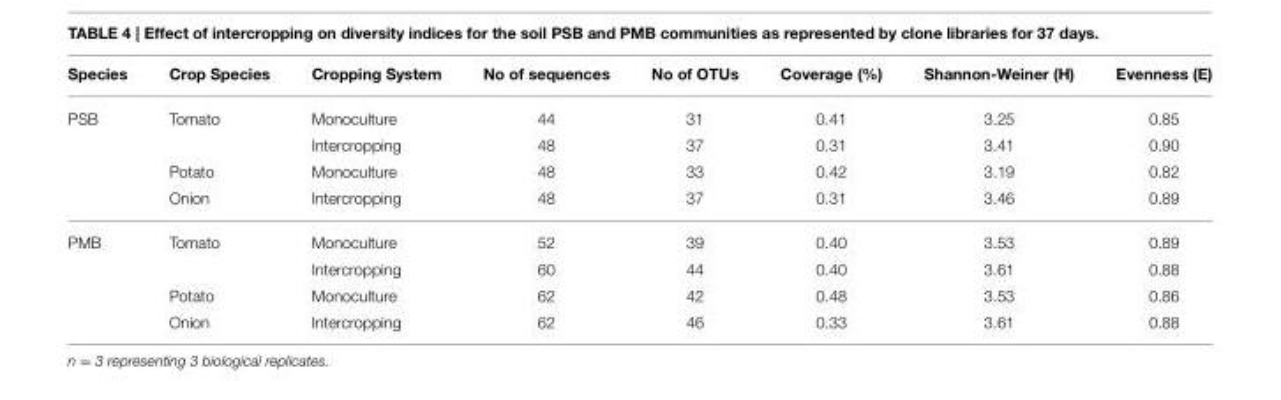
<table><thead><tr><td>Species</td><td>Crop Species</td><td>Cropping System</td><td>No of sequences</td><td>No of OTUs</td><td>Coverage (%)</td><td>Shannon-Weiner (H)</td><td>Evenness (E)</td></tr></thead><tbody><tr><td rowspan="4">PSB</td><td>Tomato</td><td>Monoculture</td><td>44</td><td>31</td><td>0.41</td><td>3.25</td><td>0.85</td></tr><tr><td></td><td>Intercropping</td><td>48</td><td>37</td><td>0.31</td><td>3.41</td><td>0.90</td></tr><tr><td>Potato</td><td>Monoculture</td><td>48</td><td>33</td><td>0.42</td><td>3.19</td><td>0.82</td></tr><tr><td>Onion</td><td>Intercropping</td><td>48</td><td>37</td><td>0.31</td><td>3.46</td><td>0.89</td></tr><tr><td rowspan="4">PMB</td><td>Tomato</td><td>Monoculture</td><td>52</td><td>39</td><td>0.40</td><td>3.53</td><td>0.89</td></tr><tr><td></td><td>Intercropping</td><td>60</td><td>44</td><td>0.40</td><td>3.61</td><td>0.88</td></tr><tr><td>Potato</td><td>Monoculture</td><td>62</td><td>42</td><td>0.48</td><td>3.53</td><td>0.86</td></tr><tr><td>Onion</td><td>Intercropping</td><td>62</td><td>46</td><td>0.33</td><td>3.61</td><td>0.88</td></tr></tbody></table>